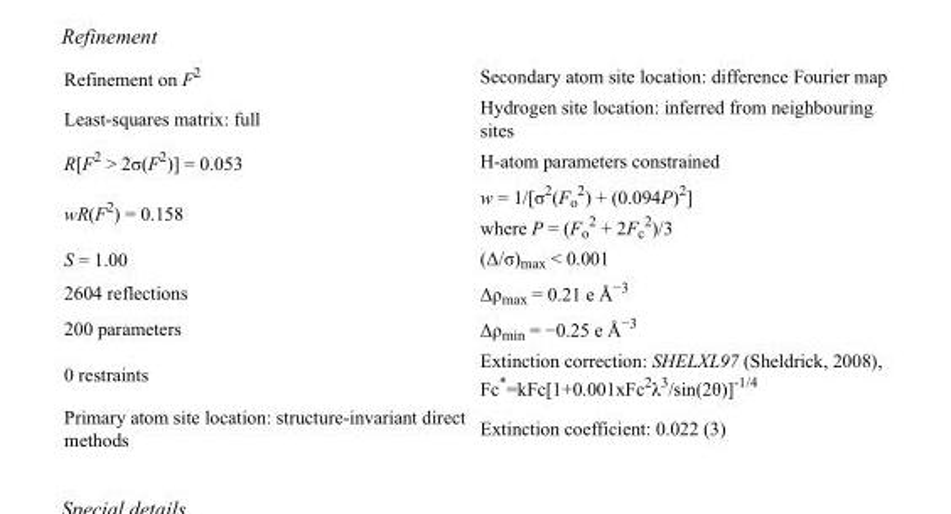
<table><tbody><tr><td>Refinement on F<sup>2</sup></td><td>Secondary atom site location: difference Fourier map</td></tr><tr><td>Least-squares matrix: full</td><td>Hydrogen site location: inferred from neighbouring sites</td></tr><tr><td>R[F<sup>2</sup> &gt; 2σ(F<sup>2</sup>)] = 0.053</td><td>H-atom parameters constrained</td></tr><tr><td>wR(F<sup>2</sup>) = 0.158</td><td>w = 1/[σ<sup>2</sup>(F<sub>o</sub> <sup>2</sup>) + (0.094P)<sup>2</sup>] where P = (F<sub>o</sub> <sup>2</sup> + 2F<sub>c</sub> <sup>2</sup>)/3</td></tr><tr><td>S = 1.00</td><td>(Δ/σ)<sub>max</sub> &lt; 0.001</td></tr><tr><td>2604 reflections</td><td>Δρ<sub>max</sub> = 0.21 e Å<sup>−3</sup></td></tr><tr><td>200 parameters</td><td>Δρ<sub>min</sub> = −0.25 e Å<sup>−3</sup></td></tr><tr><td>0 restraints</td><td>Extinction correction: SHELXL97 (Sheldrick, 2008), Fc*=kFc[1+0.001xFc<sup>2</sup>λ<sup>3</sup>/sin(2θ)]<sup>-1/4</sup></td></tr><tr><td>Primary atom site location: structure-invariant direct methods</td><td>Extinction coefficient: 0.022 (3)</td></tr></tbody></table>